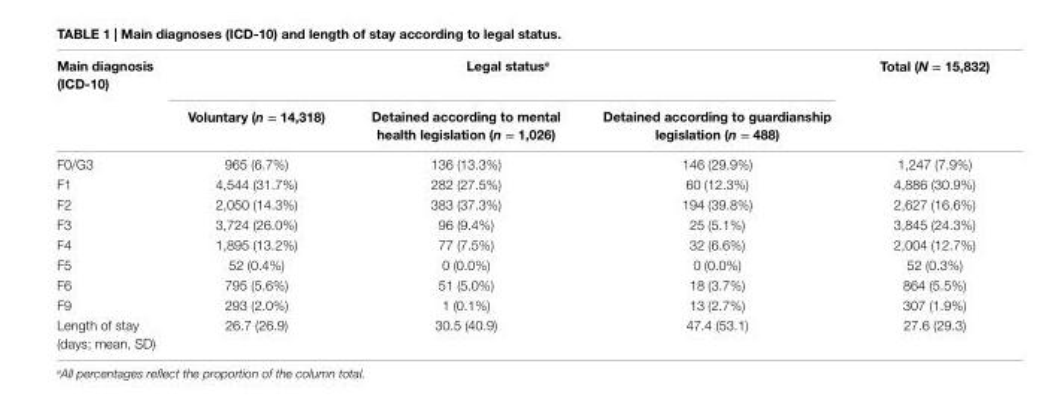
<table><thead><tr><td rowspan="2">Main diagnosis (icD-10)</td><td colspan="3">legal status<sup>a</sup></td><td rowspan="2">Total (N = 15,832)</td></tr><tr><td>Voluntary (n = 14,318)</td><td>Detained according to mental health legislation (n = 1,026)</td><td>Detained according to guardianship legislation (n = 488)</td></tr></thead><tbody><tr><td>F0/G3</td><td>965 (6.7%)</td><td>136 (13.3%)</td><td>146 (29.9%)</td><td>1,247 (7.9%)</td></tr><tr><td>F1</td><td>4,544 (31.7%)</td><td>282 (27.5%)</td><td>60 (12.3%)</td><td>4,886 (30.9%)</td></tr><tr><td>F2</td><td>2,050 (14.3%)</td><td>383 (37.3%)</td><td>194 (39.8%)</td><td>2,627 (16.6%)</td></tr><tr><td>F3</td><td>3,724 (26.0%)</td><td>96 (9.4%)</td><td>25 (5.1%)</td><td>3,845 (24.3%)</td></tr><tr><td>F4</td><td>1,895 (13.2%)</td><td>77 (7.5%)</td><td>32 (6.6%)</td><td>2,004 (12.7%)</td></tr><tr><td>F5</td><td>52 (0.4%)</td><td>0 (0.0%)</td><td>0 (0.0%)</td><td>52 (0.3%)</td></tr><tr><td>F6</td><td>795 (5.6%)</td><td>51 (5.0%)</td><td>18 (3.7%)</td><td>864 (5.5%)</td></tr><tr><td>F9</td><td>293 (2.0%)</td><td>1 (0.1%)</td><td>13 (2.7%)</td><td>307 (1.9%)</td></tr><tr><td>Length of stay (days; mean, SD)</td><td>26.7 (26.9)</td><td>30.5 (40.9)</td><td>47.4 (53.1)</td><td>27.6 (29.3)</td></tr></tbody></table>